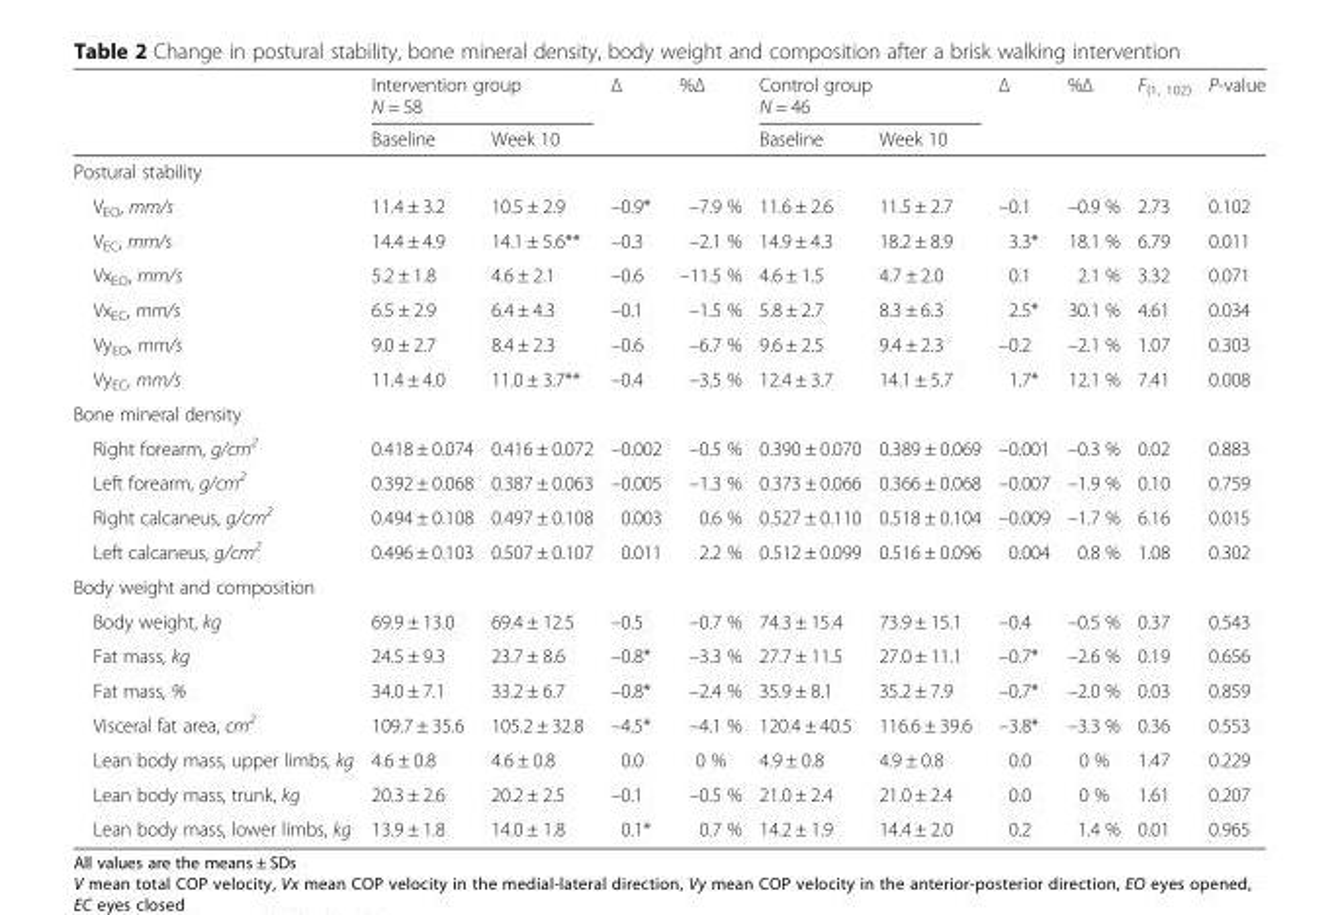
<table><thead><tr><td rowspan="2"></td><td colspan="2">Intervention group N = 58</td><td rowspan="2">Δ</td><td rowspan="2">%Δ</td><td colspan="2">Control group N = 46</td><td rowspan="2">Δ</td><td rowspan="2">%Δ</td><td rowspan="2">F<sub>(1, 102)</sub></td><td rowspan="2">P-value</td></tr><tr><td>Baseline</td><td>Week 10</td><td>Baseline</td><td>Week 10</td></tr></thead><tbody><tr><td colspan="11">Postural stability</td></tr><tr><td>V<sub>EO</sub>, mm/s</td><td>11.4 ± 3.2</td><td>10.5 ± 2.9</td><td>–0.9*</td><td>–7.9 %</td><td>11.6 ± 2.6</td><td>11.5 ± 2.7</td><td>–0.1</td><td>–0.9 %</td><td>2.73</td><td>0.102</td></tr><tr><td>V<sub>EC</sub>, mm/s</td><td>14.4 ± 4.9</td><td>14.1 ± 5.6**</td><td>–0.3</td><td>–2.1 %</td><td>14.9 ± 4.3</td><td>18.2 ± 8.9</td><td>3.3*</td><td>18.1 %</td><td>6.79</td><td>0.011</td></tr><tr><td>Vx<sub>EO</sub>, mm/s</td><td>5.2 ± 1.8</td><td>4.6 ± 2.1</td><td>–0.6</td><td>–11.5 %</td><td>4.6 ± 1.5</td><td>4.7 ± 2.0</td><td>0.1</td><td>2.1 %</td><td>3.32</td><td>0.071</td></tr><tr><td>Vx<sub>EC</sub>, mm/s</td><td>6.5 ± 2.9</td><td>6.4 ± 4.3</td><td>–0.1</td><td>–1.5 %</td><td>5.8 ± 2.7</td><td>8.3 ± 6.3</td><td>2.5*</td><td>30.1 %</td><td>4.61</td><td>0.034</td></tr><tr><td>Vy<sub>EO</sub>, mm/s</td><td>9.0 ± 2.7</td><td>8.4 ± 2.3</td><td>–0.6</td><td>–6.7 %</td><td>9.6 ± 2.5</td><td>9.4 ± 2.3</td><td>–0.2</td><td>–2.1 %</td><td>1.07</td><td>0.303</td></tr><tr><td>Vy<sub>EC</sub>, mm/s</td><td>11.4 ± 4.0</td><td>11.0 ± 3.7**</td><td>–0.4</td><td>–3.5 %</td><td>12.4 ± 3.7</td><td>14.1 ± 5.7</td><td>1.7*</td><td>12.1 %</td><td>7.41</td><td>0.008</td></tr><tr><td colspan="11">Bone mineral density</td></tr><tr><td>Right forearm, g/cm<sup>2</sup></td><td>0.418 ± 0.074</td><td>0.416 ± 0.072</td><td>–0.002</td><td>–0.5 %</td><td>0.390 ± 0.070</td><td>0.389 ± 0.069</td><td>–0.001</td><td>–0.3 %</td><td>0.02</td><td>0.883</td></tr><tr><td>Left forearm, g/cm<sup>2</sup></td><td>0.392 ± 0.068</td><td>0.387 ± 0.063</td><td>–0.005</td><td>–1.3 %</td><td>0.373 ± 0.066</td><td>0.366 ± 0.068</td><td>–0.007</td><td>–1.9 %</td><td>0.10</td><td>0.759</td></tr><tr><td>Right calcaneus, g/cm<sup>2</sup></td><td>0.494 ± 0.108</td><td>0.497 ± 0.108</td><td>0.003</td><td>0.6 %</td><td>0.527 ± 0.110</td><td>0.518 ± 0.104</td><td>–0.009</td><td>–1.7 %</td><td>6.16</td><td>0.015</td></tr><tr><td>Left calcaneus, g/cm<sup>2</sup></td><td>0.496 ± 0.103</td><td>0.507 ± 0.107</td><td>0.011</td><td>2.2 %</td><td>0.512 ± 0.099</td><td>0.516 ± 0.096</td><td>0.004</td><td>0.8 %</td><td>1.08</td><td>0.302</td></tr><tr><td colspan="11">Body weight and composition</td></tr><tr><td>Body weight, kg</td><td>69.9 ± 13.0</td><td>69.4 ± 12.5</td><td>–0.5</td><td>–0.7 %</td><td>74.3 ± 15.4</td><td>73.9 ± 15.1</td><td>–0.4</td><td>–0.5 %</td><td>0.37</td><td>0.543</td></tr><tr><td>Fat mass, kg</td><td>24.5 ± 9.3</td><td>23.7 ± 8.6</td><td>–0.8*</td><td>–3.3 %</td><td>27.7 ± 11.5</td><td>27.0 ± 11.1</td><td>–0.7*</td><td>–2.6 %</td><td>0.19</td><td>0.656</td></tr><tr><td>Fat mass, %</td><td>34.0 ± 7.1</td><td>33.2 ± 6.7</td><td>–0.8*</td><td>–2.4 %</td><td>35.9 ± 8.1</td><td>35.2 ± 7.9</td><td>–0.7*</td><td>–2.0 %</td><td>0.03</td><td>0.859</td></tr><tr><td>Visceral fat area, cm<sup>2</sup></td><td>109.7 ± 35.6</td><td>105.2 ± 32.8</td><td>–4.5*</td><td>–4.1 %</td><td>120.4 ± 40.5</td><td>116.6 ± 39.6</td><td>–3.8*</td><td>–3.3 %</td><td>0.36</td><td>0.553</td></tr><tr><td>Lean body mass, upper limbs, kg</td><td>4.6 ± 0.8</td><td>4.6 ± 0.8</td><td>0.0</td><td>0 %</td><td>4.9 ± 0.8</td><td>4.9 ± 0.8</td><td>0.0</td><td>0 %</td><td>1.47</td><td>0.229</td></tr><tr><td>Lean body mass, trunk, kg</td><td>20.3 ± 2.6</td><td>20.2 ± 2.5</td><td>–0.1</td><td>–0.5 %</td><td>21.0 ± 2.4</td><td>21.0 ± 2.4</td><td>0.0</td><td>0 %</td><td>1.61</td><td>0.207</td></tr><tr><td>Lean body mass, lower limbs, kg</td><td>13.9 ± 1.8</td><td>14.0 ± 1.8</td><td>0.1*</td><td>0.7 %</td><td>14.2 ± 1.9</td><td>14.4 ± 2.0</td><td>0.2</td><td>1.4 %</td><td>0.01</td><td>0.965</td></tr></tbody></table>